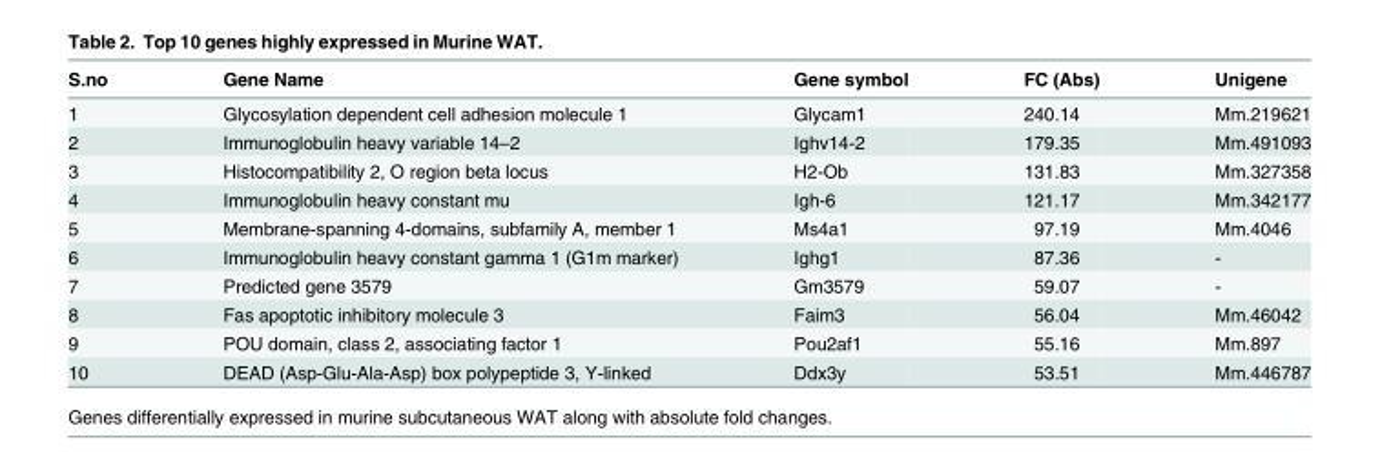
<table><thead><tr><td>S.no</td><td>Gene Name</td><td>Gene symbol</td><td>FC (Abs)</td><td>Unigene</td></tr></thead><tbody><tr><td>1</td><td>Glycosylation dependent cell adhesion molecule 1</td><td>Glycam1</td><td>240.14</td><td>Mm.219621</td></tr><tr><td>2</td><td>Immunoglobulin heavy variable 14–2</td><td>Ighv14-2</td><td>179.35</td><td>Mm.491093</td></tr><tr><td>3</td><td>Histocompatibility 2, O region beta locus</td><td>H2-Ob</td><td>131.83</td><td>Mm.327358</td></tr><tr><td>4</td><td>Immunoglobulin heavy constant mu</td><td>Igh-6</td><td>121.17</td><td>Mm.342177</td></tr><tr><td>5</td><td>Membrane-spanning 4-domains, subfamily A, member 1</td><td>Ms4a1</td><td>97.19</td><td>Mm.4046</td></tr><tr><td>6</td><td>Immunoglobulin heavy constant gamma 1 (G1m marker)</td><td>Ighg1</td><td>87.36</td><td>-</td></tr><tr><td>7</td><td>Predicted gene 3579</td><td>Gm3579</td><td>59.07</td><td>-</td></tr><tr><td>8</td><td>Fas apoptotic inhibitory molecule 3</td><td>Faim3</td><td>56.04</td><td>Mm.46042</td></tr><tr><td>9</td><td>POU domain, class 2, associating factor 1</td><td>Pou2af1</td><td>55.16</td><td>Mm.897</td></tr><tr><td>10</td><td>DEAD (Asp-Glu-Ala-Asp) box polypeptide 3, Y-linked</td><td>Ddx3y</td><td>53.51</td><td>Mm.446787</td></tr></tbody></table>